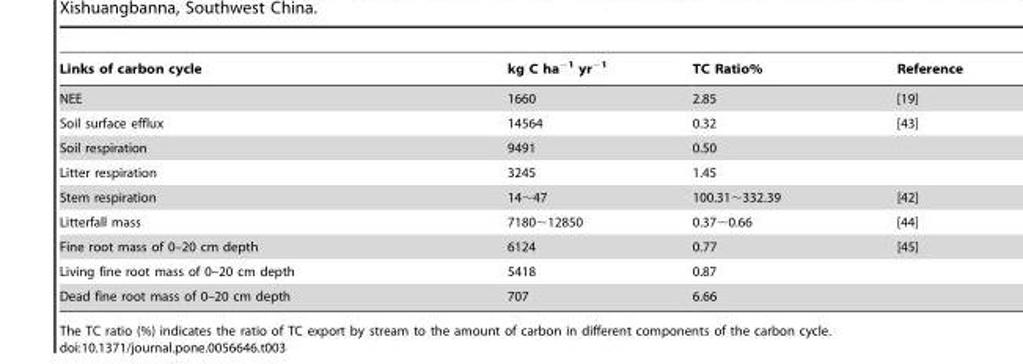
<table><thead><tr><td>Links of carbon cycle</td><td>kg C ha<sup>−1</sup> yr<sup>−1</sup></td><td>TC Ratio%</td><td>Reference</td></tr></thead><tbody><tr><td>NEE</td><td>1660</td><td>2.85</td><td>[19]</td></tr><tr><td>Soil surface efflux</td><td>14564</td><td>0.32</td><td>[43]</td></tr><tr><td>Soil respiration</td><td>9491</td><td>0.50</td><td></td></tr><tr><td>Litter respiration</td><td>3245</td><td>1.45</td><td></td></tr><tr><td>Stem respiration</td><td>14∼47</td><td>100.31∼332.39</td><td>[42]</td></tr><tr><td>Litterfall mass</td><td>7180∼12850</td><td>0.37∼0.66</td><td>[44]</td></tr><tr><td>Fine root mass of 0–20 cm depth</td><td>6124</td><td>0.77</td><td>[45]</td></tr><tr><td>Living fine root mass of 0–20 cm depth</td><td>5418</td><td>0.87</td><td></td></tr><tr><td>Dead fine root mass of 0–20 cm depth</td><td>707</td><td>6.66</td><td></td></tr></tbody></table>